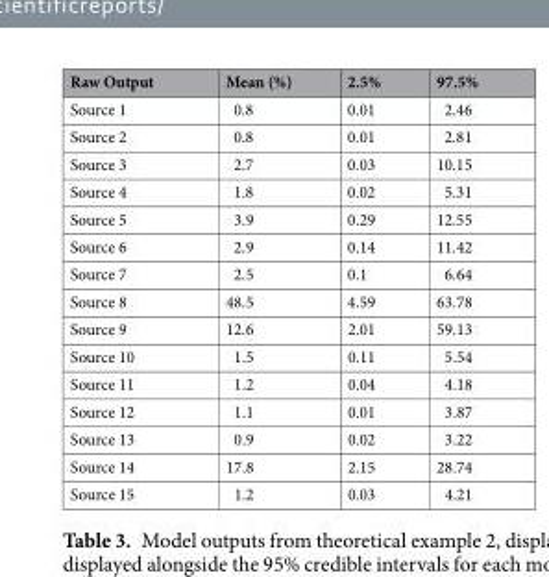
<table><thead><tr><td>Raw Output</td><td>Mean (%)</td><td>2.5%</td><td>97.5%</td></tr></thead><tbody><tr><td>Source 1</td><td>0.8</td><td>0.01</td><td>2.46</td></tr><tr><td>Source 2</td><td>0.8</td><td>0.01</td><td>2.81</td></tr><tr><td>Source 3</td><td>2.7</td><td>0.03</td><td>10.15</td></tr><tr><td>Source 4</td><td>1.8</td><td>0.02</td><td>5.31</td></tr><tr><td>Source 5</td><td>3.9</td><td>0.29</td><td>12.55</td></tr><tr><td>Source 6</td><td>2.9</td><td>0.14</td><td>11.42</td></tr><tr><td>Source 7</td><td>2.5</td><td>0.1</td><td>6.64</td></tr><tr><td>Source 8</td><td>48.5</td><td>4.59</td><td>63.78</td></tr><tr><td>Source 9</td><td>12.6</td><td>2.01</td><td>59.13</td></tr><tr><td>Source 10</td><td>1.5</td><td>0.11</td><td>5.54</td></tr><tr><td>Source 11</td><td>1.2</td><td>0.04</td><td>4.18</td></tr><tr><td>Source 12</td><td>1.1</td><td>0.01</td><td>3.87</td></tr><tr><td>Source 13</td><td>0.9</td><td>0.02</td><td>3.22</td></tr><tr><td>Source 14</td><td>17.8</td><td>2.15</td><td>28.74</td></tr><tr><td>Source 15</td><td>1.2</td><td>0.03</td><td>4.21</td></tr></tbody></table>